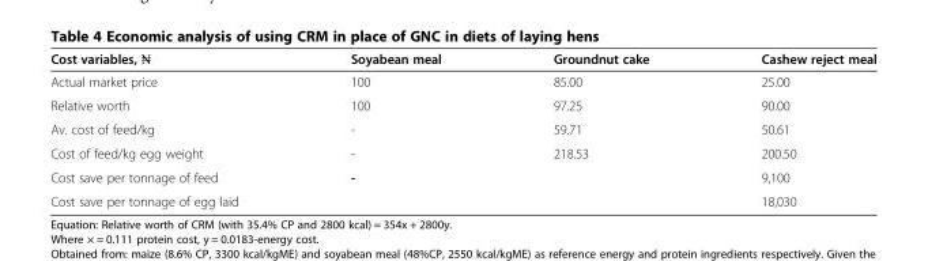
<table><thead><tr><td>Cost variables, ₦</td><td>Soyabean meal</td><td>Groundnut cake</td><td>Cashew reject meal</td></tr></thead><tbody><tr><td>Actual market price</td><td>100</td><td>85.00</td><td>25.00</td></tr><tr><td>Relative worth</td><td>100</td><td>97.25</td><td>90.00</td></tr><tr><td>Av. cost of feed/kg</td><td>-</td><td>59.71</td><td>50.61</td></tr><tr><td>Cost of feed/kg egg weight</td><td>-</td><td>218.53</td><td>200.50</td></tr><tr><td>Cost save per tonnage of feed</td><td>-</td><td></td><td>9,100</td></tr><tr><td>Cost save per tonnage of egg laid</td><td></td><td></td><td>18,030</td></tr></tbody></table>